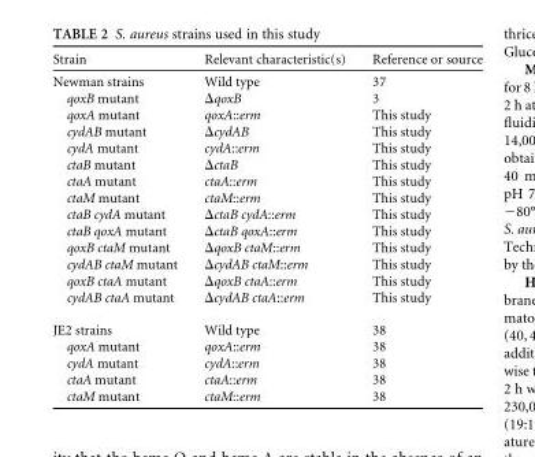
<table><thead><tr><td>Strain</td><td>Relevant characteristic(s)</td><td>Reference or source</td></tr></thead><tbody><tr><td>Newman strains</td><td>Wild type</td><td>37</td></tr><tr><td>qoxB mutant</td><td>ΔqoxB</td><td>3</td></tr><tr><td>qoxA mutant</td><td>qoxA::erm</td><td>This study</td></tr><tr><td>cydAB mutant</td><td>ΔcydAB</td><td>This study</td></tr><tr><td>cydA mutant</td><td>cydA::erm</td><td>This study</td></tr><tr><td>ctaB mutant</td><td>ΔctaB</td><td>This study</td></tr><tr><td>ctaA mutant</td><td>ctaA::erm</td><td>This study</td></tr><tr><td>ctaM mutant</td><td>ctaM::erm</td><td>This study</td></tr><tr><td>ctaB cydA mutant</td><td>ΔctaB cydA::erm</td><td>This study</td></tr><tr><td>ctaB qoxA mutant</td><td>ΔctaB qoxA::erm</td><td>This study</td></tr><tr><td>qoxB ctaM mutant</td><td>ΔqoxB ctaM::erm</td><td>This study</td></tr><tr><td>cydAB ctaM mutant</td><td>ΔcydAB ctaM::erm</td><td>This study</td></tr><tr><td>qoxB ctaA mutant</td><td>ΔqoxB ctaA::erm</td><td>This study</td></tr><tr><td>cydAB ctaA mutant</td><td>ΔcydAB ctaA::erm</td><td>This study</td></tr><tr><td>JE2 strains</td><td>Wild type</td><td>38</td></tr><tr><td>qoxA mutant</td><td>qoxA::erm</td><td>38</td></tr><tr><td>cydA mutant</td><td>cydA::erm</td><td>38</td></tr><tr><td>ctaA mutant</td><td>ctaA::erm</td><td>38</td></tr><tr><td>ctaM mutant</td><td>ctaM::erm</td><td>38</td></tr></tbody></table>